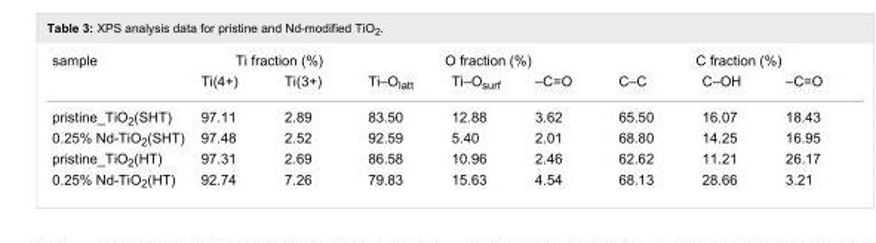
<table><tbody><tr><td rowspan="2">sample</td><td colspan="2">Ti fraction (%)</td><td colspan="3">O fraction (%)</td><td colspan="3">C fraction (%)</td></tr><tr><td>Ti(4+)</td><td>Ti(3+)</td><td>Ti–O<sub>latt</sub></td><td>Ti–O<sub>surf</sub></td><td>–C=O</td><td>C–C</td><td>C–OH</td><td>–C=O</td></tr><tr><td>pristine_TiO<sub>2</sub>(SHT)</td><td>97.11</td><td>2.89</td><td>83.50</td><td>12.88</td><td>3.62</td><td>65.50</td><td>16.07</td><td>18.43</td></tr><tr><td>0.25% Nd-TiO<sub>2</sub>(SHT)</td><td>97.48</td><td>2.52</td><td>92.59</td><td>5.40</td><td>2.01</td><td>68.80</td><td>14.25</td><td>16.95</td></tr><tr><td>pristine_TiO<sub>2</sub>(HT)</td><td>97.31</td><td>2.69</td><td>86.58</td><td>10.96</td><td>2.46</td><td>62.62</td><td>11.21</td><td>26.17</td></tr><tr><td>0.25% Nd-TiO<sub>2</sub>(HT)</td><td>92.74</td><td>7.26</td><td>79.83</td><td>15.63</td><td>4.54</td><td>68.13</td><td>28.66</td><td>3.21</td></tr></tbody></table>